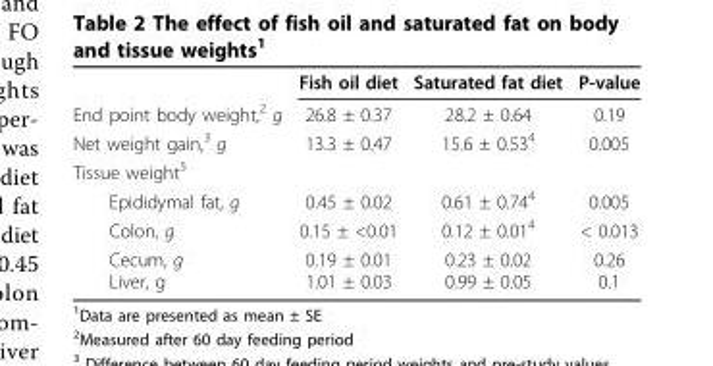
<table><thead><tr><td></td><td>Fish oil diet</td><td>Saturated fat diet</td><td>P-value</td></tr></thead><tbody><tr><td>End point body weight,<sup>2</sup> g</td><td>26.8 ± 0.37</td><td>28.2 ± 0.64</td><td>0.19</td></tr><tr><td>Net weight gain,<sup>3</sup> g</td><td>13.3 ± 0.47</td><td>15.6 ± 0.53<sup>4</sup></td><td>0.005</td></tr><tr><td colspan="4">Tissue weight<sup>5</sup></td></tr><tr><td>Epididymal fat, g</td><td>0.45 ± 0.02</td><td>0.61 ± 0.74<sup>4</sup></td><td>0.005</td></tr><tr><td>Colon, g</td><td>0.15 ± &lt;0.01</td><td>0.12 ± 0.01<sup>4</sup></td><td>&lt; 0.013</td></tr><tr><td>Cecum, g Liver, g</td><td>0.19 ± 0.01 1.01 ± 0.03</td><td>0.23 ± 0.02 0.99 ± 0.05</td><td>0.26 0.1</td></tr></tbody></table>